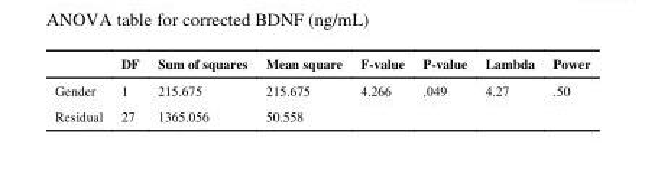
<table><thead><tr><td></td><td>DF</td><td>Sum of squares</td><td>Mean square</td><td>F-value</td><td>P-value</td><td>Lambda</td><td>Power</td></tr></thead><tbody><tr><td>Gender</td><td>1</td><td>215.675</td><td>215.675</td><td>4.266</td><td>.049</td><td>4.27</td><td>.50</td></tr><tr><td>Residual</td><td>27</td><td>1365.056</td><td>50.558</td><td></td><td></td><td></td><td></td></tr></tbody></table>